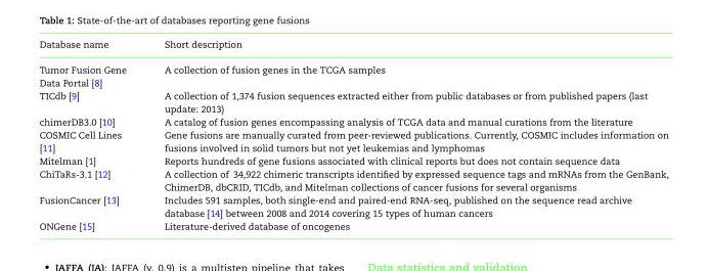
<table><thead><tr><td>Database name</td><td>Short description</td></tr></thead><tbody><tr><td>Tumor Fusion Gene Data Portal [8]</td><td>A collection of fusion genes in the TCGA samples</td></tr><tr><td>TICdb [9]</td><td>A collection of 1,374 fusion sequences extracted either from public databases or from published papers (last update: 2013)</td></tr><tr><td>chimerDB3.0 [10]</td><td>A catalog of fusion genes encompassing analysis of TCGA data and manual curations from the literature</td></tr><tr><td>COSMIC Cell Lines [11]</td><td>Gene fusions are manually curated from peer-reviewed publications. Currently, COSMIC includes information on fusions involved in solid tumors but not yet leukemias and lymphomas</td></tr><tr><td>Mitelman [1]</td><td>Reports hundreds of gene fusions associated with clinical reports but does not contain sequence data</td></tr><tr><td>ChiTaRs-3.1 [12]</td><td>A collection of 34,922 chimeric transcripts identified by expressed sequence tags and mRNAs from the GenBank, ChimerDB, dbCRID, TICdb, and Mitelman collections of cancer fusions for several organisms</td></tr><tr><td>FusionCancer [13]</td><td>Includes 591 samples, both single-end and paired-end RNA-seq, published on the sequence read archive database [14] between 2008 and 2014 covering 15 types of human cancers</td></tr><tr><td>ONGene [15]</td><td>Literature-derived database of oncogenes</td></tr></tbody></table>